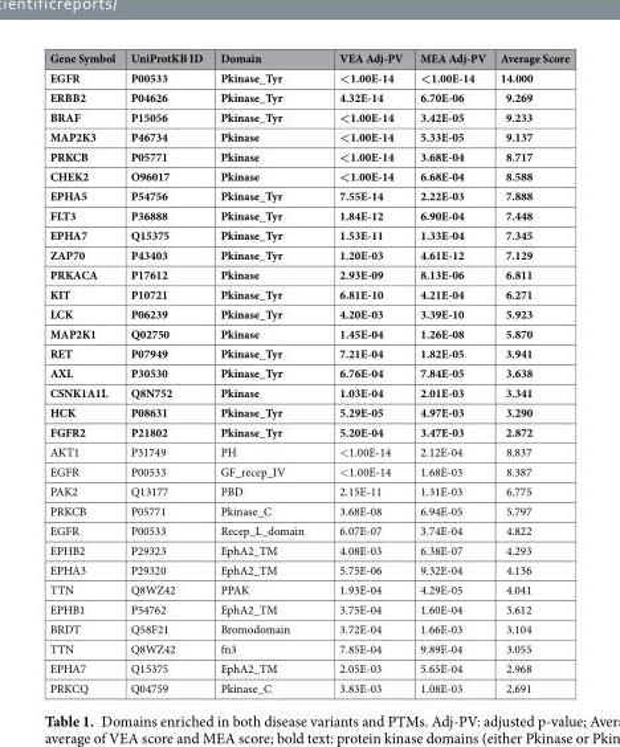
<table><thead><tr><td>Gene Symbol</td><td>UniProtKB ID</td><td>Domain</td><td>VEA Adj-PV</td><td>MEA Adj-PV</td><td>Average Score</td></tr></thead><tbody><tr><td>EGFR</td><td>P00533</td><td>Pkinase_Tyr</td><td>&lt;1.00E-14</td><td>&lt;1.00E-14</td><td>14.000</td></tr><tr><td>ERBB2</td><td>P04626</td><td>Pkinase_Tyr</td><td>4.32E-14</td><td>6.70E-06</td><td>9.269</td></tr><tr><td>BRAF</td><td>P15056</td><td>Pkinase_Tyr</td><td>&lt;1.00E-14</td><td>3.42E-05</td><td>9.233</td></tr><tr><td>MAP2K3</td><td>P46734</td><td>Pkinase</td><td>&lt;1.00E-14</td><td>5.33E-05</td><td>9.137</td></tr><tr><td>PRKCB</td><td>P05771</td><td>Pkinase</td><td>&lt;1.00E-14</td><td>3.68E-04</td><td>8.717</td></tr><tr><td>CHEK2</td><td>O96017</td><td>Pkinase</td><td>&lt;1.00E-14</td><td>6.68E-04</td><td>8.588</td></tr><tr><td>EPHA5</td><td>P54756</td><td>Pkinase_Tyr</td><td>7.55E-14</td><td>2.22E-03</td><td>7.888</td></tr><tr><td>FLT3</td><td>P36888</td><td>Pkinase_Tyr</td><td>1.84E-12</td><td>6.90E-04</td><td>7.448</td></tr><tr><td>EPHA7</td><td>Q15375</td><td>Pkinase_Tyr</td><td>1.53E-11</td><td>1.33E-04</td><td>7.345</td></tr><tr><td>ZAP70</td><td>P43403</td><td>Pkinase_Tyr</td><td>1.20E-03</td><td>4.61E-12</td><td>7.129</td></tr><tr><td>PRKACA</td><td>P17612</td><td>Pkinase</td><td>2.93E-09</td><td>8.13E-06</td><td>6.811</td></tr><tr><td>KIT</td><td>P10721</td><td>Pkinase_Tyr</td><td>6.81E-10</td><td>4.21E-04</td><td>6.271</td></tr><tr><td>LCK</td><td>P06239</td><td>Pkinase_Tyr</td><td>4.20E-03</td><td>3.39E-10</td><td>5.923</td></tr><tr><td>MAP2K1</td><td>Q02750</td><td>Pkinase</td><td>1.45E-04</td><td>1.26E-08</td><td>5.870</td></tr><tr><td>RET</td><td>P07949</td><td>Pkinase_Tyr</td><td>7.21E-04</td><td>1.82E-05</td><td>3.941</td></tr><tr><td>AXL</td><td>P30530</td><td>Pkinase_Tyr</td><td>6.76E-04</td><td>7.84E-05</td><td>3.638</td></tr><tr><td>CSNK1A1L</td><td>Q8N752</td><td>Pkinase</td><td>1.03E-04</td><td>2.01E-03</td><td>3.341</td></tr><tr><td>HCK</td><td>P08631</td><td>Pkinase_Tyr</td><td>5.29E-05</td><td>4.97E-03</td><td>3.290</td></tr><tr><td>FGFR2</td><td>P21802</td><td>Pkinase_Tyr</td><td>5.20E-04</td><td>3.47E-03</td><td>2.872</td></tr><tr><td>AKT1</td><td>P31749</td><td>PH</td><td>&lt;1.00E-14</td><td>2.12E-04</td><td>8.837</td></tr><tr><td>EGFR</td><td>P00533</td><td>GF_recep_IV</td><td>&lt;1.00E-14</td><td>1.68E-03</td><td>8.387</td></tr><tr><td>PAK2</td><td>Q13177</td><td>PBD</td><td>2.15E-11</td><td>1.31E-03</td><td>6.775</td></tr><tr><td>PRKCB</td><td>P05771</td><td>Pkinase_C</td><td>3.68E-08</td><td>6.94E-05</td><td>5.797</td></tr><tr><td>EGFR</td><td>P00533</td><td>Recep_L_domain</td><td>6.07E-07</td><td>3.74E-04</td><td>4.822</td></tr><tr><td>EPHB2</td><td>P29323</td><td>EphA2_TM</td><td>4.08E-03</td><td>6.38E-07</td><td>4.293</td></tr><tr><td>EPHA3</td><td>P29320</td><td>EphA2_TM</td><td>5.75E-06</td><td>9.32E-04</td><td>4.136</td></tr><tr><td>TTN</td><td>Q8WZ42</td><td>PPAK</td><td>1.93E-04</td><td>4.29E-05</td><td>4.041</td></tr><tr><td>EPHB1</td><td>P54762</td><td>EphA2_TM</td><td>3.75E-04</td><td>1.60E-04</td><td>3.612</td></tr><tr><td>BRDT</td><td>Q58F21</td><td>Bromodomain</td><td>3.72E-04</td><td>1.66E-03</td><td>3.104</td></tr><tr><td>TTN</td><td>Q8WZ42</td><td>fn3</td><td>7.85E-04</td><td>9.89E-04</td><td>3.055</td></tr><tr><td>EPHA7</td><td>Q15375</td><td>EphA2_TM</td><td>2.05E-03</td><td>5.65E-04</td><td>2.968</td></tr><tr><td>PRKCQ</td><td>Q04759</td><td>Pkinase_C</td><td>3.83E-03</td><td>1.08E-03</td><td>2.691</td></tr></tbody></table>